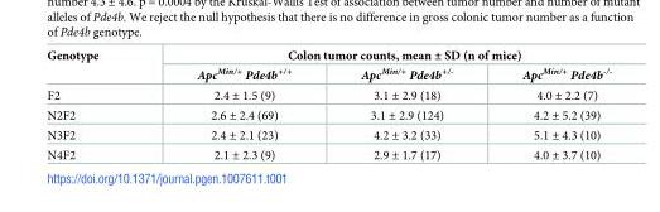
<table><thead><tr><td rowspan="2">Genotype</td><td colspan="3">Colon tumor counts, mean ± SD (n of mice)</td></tr><tr><td>Apc<sup>Min/+</sup> Pde4b<sup>+/+</sup></td><td>Apc<sup>Min/+</sup> Pde4b<sup>+/-</sup></td><td>Apc<sup>Min/+</sup> Pde4b<sup>-/-</sup></td></tr></thead><tbody><tr><td>F2</td><td>2.4 ± 1.5 (9)</td><td>3.1 ± 2.9 (18)</td><td>4.0 ± 2.2 (7)</td></tr><tr><td>N2F2</td><td>2.6 ± 2.4 (69)</td><td>3.1 ± 2.9 (124)</td><td>4.2 ± 5.2 (39)</td></tr><tr><td>N3F2</td><td>2.4 ± 2.1 (23)</td><td>4.2 ± 3.2 (33)</td><td>5.1 ± 4.3 (10)</td></tr><tr><td>N4F2</td><td>2.1 ± 2.3 (9)</td><td>2.9 ± 1.7 (17)</td><td>4.0 ± 3.7 (10)</td></tr></tbody></table>